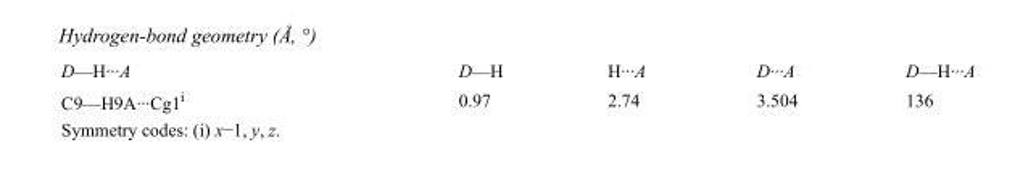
<table><tbody><tr><td>D—H···A</td><td>D—H</td><td>H···A</td><td>D···A</td><td>D—H···A</td></tr><tr><td>C9—H9A···Cg1<sup>i</sup></td><td>0.97</td><td>2.74</td><td>3.504</td><td>136</td></tr></tbody></table>